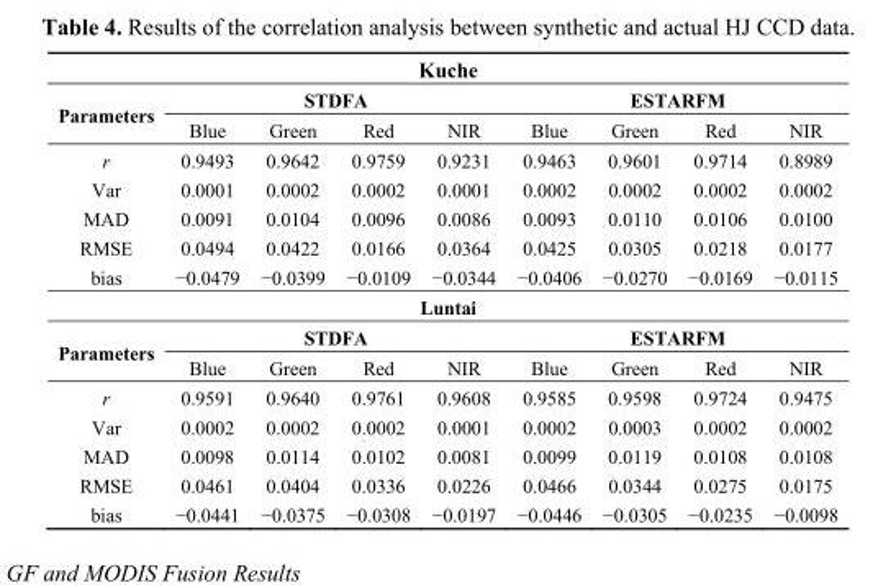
<table><thead><tr><td colspan="9">Kuche</td></tr><tr><td rowspan="2">Parameters</td><td colspan="4">STDFA</td><td colspan="4">ESTARFM</td></tr><tr><td>Blue</td><td>Green</td><td>Red</td><td>NIR</td><td>Blue</td><td>Green</td><td>Red</td><td>NIR</td></tr></thead><tbody><tr><td>r</td><td>0.9493</td><td>0.9642</td><td>0.9759</td><td>0.9231</td><td>0.9463</td><td>0.9601</td><td>0.9714</td><td>0.8989</td></tr><tr><td>Var</td><td>0.0001</td><td>0.0002</td><td>0.0002</td><td>0.0001</td><td>0.0002</td><td>0.0002</td><td>0.0002</td><td>0.0002</td></tr><tr><td>MAD</td><td>0.0091</td><td>0.0104</td><td>0.0096</td><td>0.0086</td><td>0.0093</td><td>0.0110</td><td>0.0106</td><td>0.0100</td></tr><tr><td>RMSE</td><td>0.0494</td><td>0.0422</td><td>0.0166</td><td>0.0364</td><td>0.0425</td><td>0.0305</td><td>0.0218</td><td>0.0177</td></tr><tr><td>bias</td><td>−0.0479</td><td>−0.0399</td><td>−0.0109</td><td>−0.0344</td><td>−0.0406</td><td>−0.0270</td><td>−0.0169</td><td>−0.0115</td></tr><tr><td colspan="9">Luntai</td></tr><tr><td rowspan="2">Parameters</td><td colspan="4">STDFA</td><td colspan="4">ESTARFM</td></tr><tr><td>Blue</td><td>Green</td><td>Red</td><td>NIR</td><td>Blue</td><td>Green</td><td>Red</td><td>NIR</td></tr><tr><td>r</td><td>0.9591</td><td>0.9640</td><td>0.9761</td><td>0.9608</td><td>0.9585</td><td>0.9598</td><td>0.9724</td><td>0.9475</td></tr><tr><td>Var</td><td>0.0002</td><td>0.0002</td><td>0.0002</td><td>0.0001</td><td>0.0002</td><td>0.0003</td><td>0.0002</td><td>0.0002</td></tr><tr><td>MAD</td><td>0.0098</td><td>0.0114</td><td>0.0102</td><td>0.0081</td><td>0.0099</td><td>0.0119</td><td>0.0108</td><td>0.0108</td></tr><tr><td>RMSE</td><td>0.0461</td><td>0.0404</td><td>0.0336</td><td>0.0226</td><td>0.0466</td><td>0.0344</td><td>0.0275</td><td>0.0175</td></tr><tr><td>bias</td><td>−0.0441</td><td>−0.0375</td><td>−0.0308</td><td>−0.0197</td><td>−0.0446</td><td>−0.0305</td><td>−0.0235</td><td>−0.0098</td></tr></tbody></table>